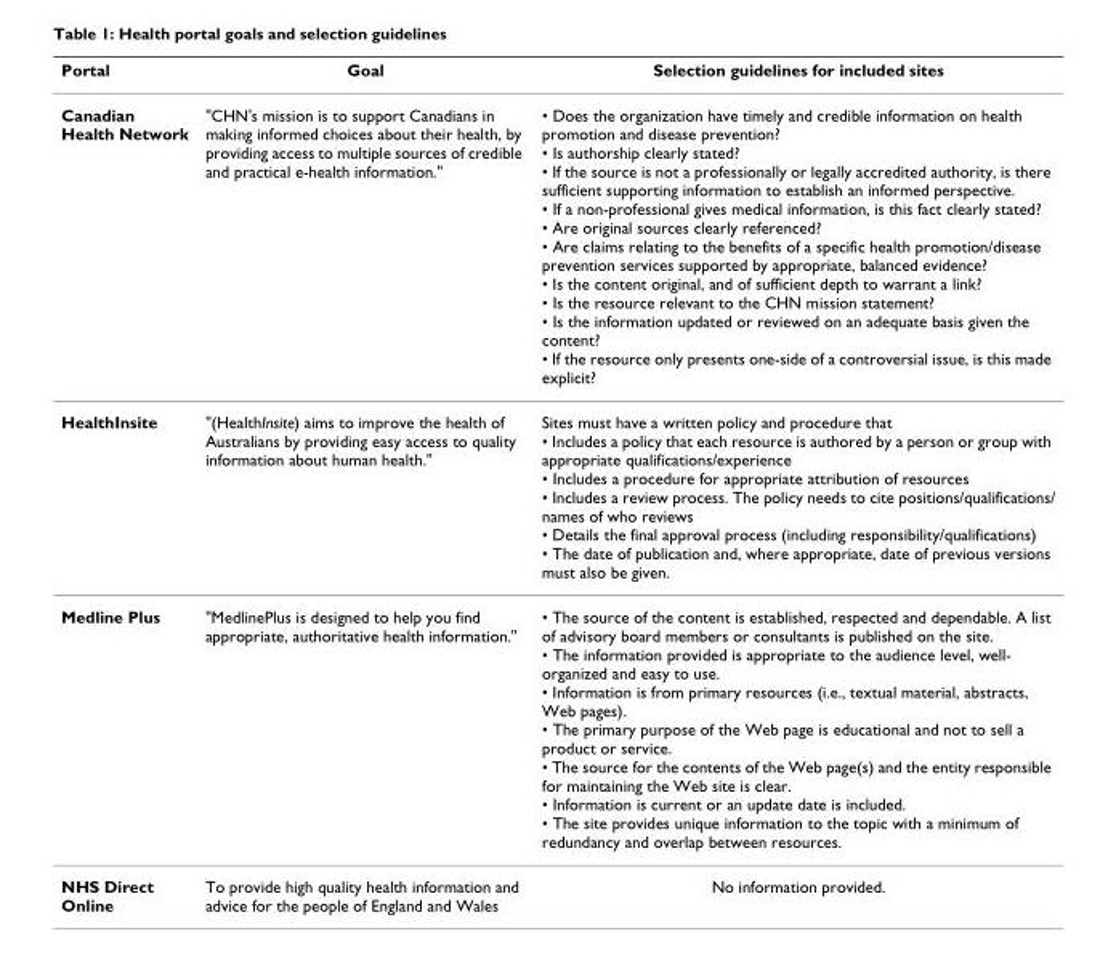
<table><thead><tr><td>Portal</td><td>Goal</td><td>Selection guidelines for included sites</td></tr></thead><tbody><tr><td>Canadian Health Network</td><td>&quot;CHN&#x27;s mission is to support Canadians in making informed choices about their health, by providing access to multiple sources of credible and practical e-health information.&quot;</td><td>• Does the organization have timely and credible information on health promotion and disease prevention? • Is authorship clearly stated? • If the source is not a professionally or legally accredited authority, is there sufficient supporting information to establish an informed perspective. • If a non-professional gives medical information, is this fact clearly stated? • Are original sources clearly referenced? • Are claims relating to the benefits of a specific health promotion/disease prevention services supported by appropriate, balanced evidence? • Is the content original, and of sufficient depth to warrant a link? • Is the resource relevant to the CHN mission statement? • Is the information updated or reviewed on an adequate basis given the content? • If the resource only presents one-side of a controversial issue, is this made explicit?</td></tr><tr><td>HealthInsite</td><td>&quot;(HealthInsite) aims to improve the health of Australians by providing easy access to quality information about human health.&quot;</td><td>Sites must have a written policy and procedure that • Includes a policy that each resource is authored by a person or group with appropriate qualifications/experience • Includes a procedure for appropriate attribution of resources • Includes a review process. The policy needs to cite positions/qualifications/ names of who reviews • Details the final approval process (including responsibility/qualifications) • The date of publication and, where appropriate, date of previous versions must also be given.</td></tr><tr><td>Medline Plus</td><td>&quot;MedlinePlus is designed to help you find appropriate, authoritative health information.&quot;</td><td>• The source of the content is established, respected and dependable. A list of advisory board members or consultants is published on the site. • The information provided is appropriate to the audience level, well- organized and easy to use. • Information is from primary resources (i.e., textual material, abstracts, Web pages). • The primary purpose of the Web page is educational and not to sell a product or service. • The source for the contents of the Web page(s) and the entity responsible for maintaining the Web site is clear. • Information is current or an update date is included. • The site provides unique information to the topic with a minimum of redundancy and overlap between resources.</td></tr><tr><td>NHS Direct Online</td><td>To provide high quality health information and advice for the people of England and Wales</td><td>No information provided.</td></tr></tbody></table>